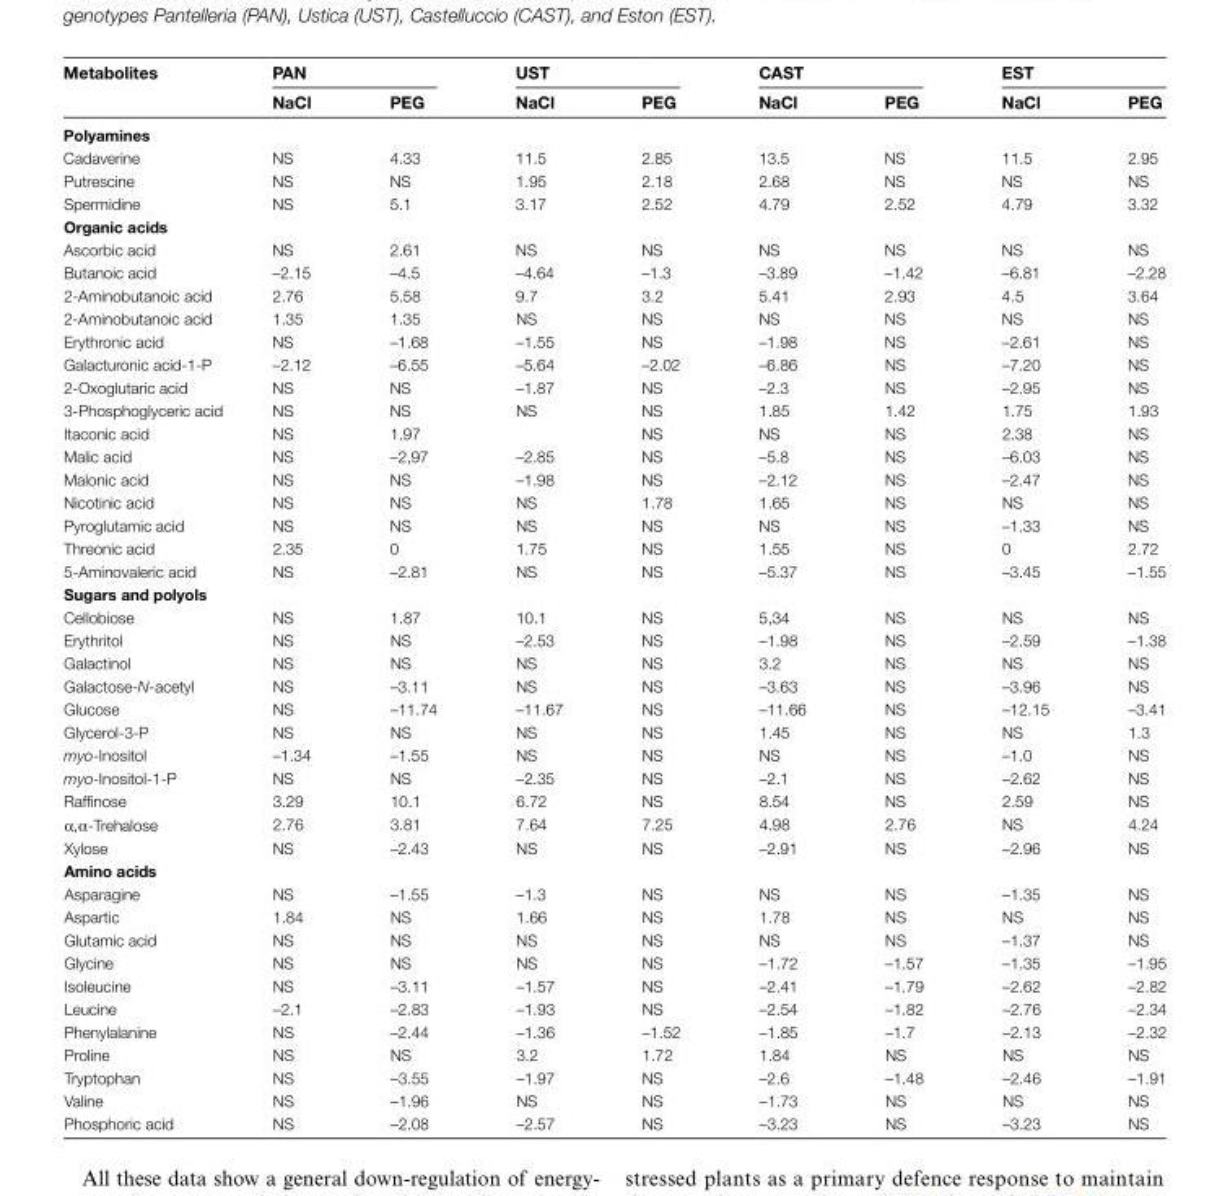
<table><thead><tr><td rowspan="2">Metabolites</td><td colspan="2">PAN</td><td colspan="2">UST</td><td colspan="2">CAST</td><td colspan="2">EST</td></tr><tr><td>NaCl</td><td>PEG</td><td>NaCl</td><td>PEG</td><td>NaCl</td><td>PEG</td><td>NaCl</td><td>PEG</td></tr></thead><tbody><tr><td colspan="9">Polyamines</td></tr><tr><td>Cadaverine</td><td>NS</td><td>4.33</td><td>11.5</td><td>2.85</td><td>13.5</td><td>NS</td><td>11.5</td><td>2.95</td></tr><tr><td>Putrescine</td><td>NS</td><td>NS</td><td>1.95</td><td>2.18</td><td>2.68</td><td>NS</td><td>NS</td><td>NS</td></tr><tr><td>Spermidine</td><td>NS</td><td>5.1</td><td>3.17</td><td>2.52</td><td>4.79</td><td>2.52</td><td>4.79</td><td>3.32</td></tr><tr><td colspan="9">Organic acids</td></tr><tr><td>Ascorbic acid</td><td>NS</td><td>2.61</td><td>NS</td><td>NS</td><td>NS</td><td>NS</td><td>NS</td><td>NS</td></tr><tr><td>Butanoic acid</td><td>–2.15</td><td>–4.5</td><td>–4.64</td><td>–1.3</td><td>–3.89</td><td>–1.42</td><td>–6.81</td><td>–2.28</td></tr><tr><td>2-Aminobutanoic acid</td><td>2.76</td><td>5.58</td><td>9.7</td><td>3.2</td><td>5.41</td><td>2.93</td><td>4.5</td><td>3.64</td></tr><tr><td>2-Aminobutanoic acid</td><td>1.35</td><td>1.35</td><td>NS</td><td>NS</td><td>NS</td><td>NS</td><td>NS</td><td>NS</td></tr><tr><td>Erythronic acid</td><td>NS</td><td>–1.68</td><td>–1.55</td><td>NS</td><td>–1.98</td><td>NS</td><td>–2.61</td><td>NS</td></tr><tr><td>Galacturonic acid-1-P</td><td>–2.12</td><td>–6.55</td><td>–5.64</td><td>–2.02</td><td>–6.86</td><td>NS</td><td>–7.20</td><td>NS</td></tr><tr><td>2-Oxoglutaric acid</td><td>NS</td><td>NS</td><td>–1.87</td><td>NS</td><td>–2.3</td><td>NS</td><td>–2.95</td><td>NS</td></tr><tr><td>3-Phosphoglyceric acid</td><td>NS</td><td>NS</td><td>NS</td><td>NS</td><td>1.85</td><td>1.42</td><td>1.75</td><td>1.93</td></tr><tr><td>Itaconic acid</td><td>NS</td><td>1.97</td><td></td><td>NS</td><td>NS</td><td>NS</td><td>2.38</td><td>NS</td></tr><tr><td>Malic acid</td><td>NS</td><td>–2,97</td><td>–2.85</td><td>NS</td><td>–5.8</td><td>NS</td><td>–6.03</td><td>NS</td></tr><tr><td>Malonic acid</td><td>NS</td><td>NS</td><td>–1.98</td><td>NS</td><td>–2.12</td><td>NS</td><td>–2.47</td><td>NS</td></tr><tr><td>Nicotinic acid</td><td>NS</td><td>NS</td><td>NS</td><td>1.78</td><td>1.65</td><td>NS</td><td>NS</td><td>NS</td></tr><tr><td>Pyroglutamic acid</td><td>NS</td><td>NS</td><td>NS</td><td>NS</td><td>NS</td><td>NS</td><td>–1.33</td><td>NS</td></tr><tr><td>Threonic acid</td><td>2.35</td><td>0</td><td>1.75</td><td>NS</td><td>1.55</td><td>NS</td><td>0</td><td>2.72</td></tr><tr><td>5-Aminovaleric acid</td><td>NS</td><td>–2.81</td><td>NS</td><td>NS</td><td>–5.37</td><td>NS</td><td>–3.45</td><td>–1.55</td></tr><tr><td colspan="9">Sugars and polyols</td></tr><tr><td>Cellobiose</td><td>NS</td><td>1.87</td><td>10.1</td><td>NS</td><td>5,34</td><td>NS</td><td>NS</td><td>NS</td></tr><tr><td>Erythritol</td><td>NS</td><td>NS</td><td>–2.53</td><td>NS</td><td>–1.98</td><td>NS</td><td>–2.59</td><td>–1.38</td></tr><tr><td>Galactinol</td><td>NS</td><td>NS</td><td>NS</td><td>NS</td><td>3.2</td><td>NS</td><td>NS</td><td>NS</td></tr><tr><td>Galactose-N-acetyl</td><td>NS</td><td>–3.11</td><td>NS</td><td>NS</td><td>–3.63</td><td>NS</td><td>–3.96</td><td>NS</td></tr><tr><td>Glucose</td><td>NS</td><td>–11.74</td><td>–11.67</td><td>NS</td><td>–11.66</td><td>NS</td><td>–12.15</td><td>–3.41</td></tr><tr><td>Glycerol-3-P</td><td>NS</td><td>NS</td><td>NS</td><td>NS</td><td>1.45</td><td>NS</td><td>NS</td><td>1.3</td></tr><tr><td>myo-Inositol</td><td>–1.34</td><td>–1.55</td><td>NS</td><td>NS</td><td>NS</td><td>NS</td><td>–1.0</td><td>NS</td></tr><tr><td>myo-Inositol-1-P</td><td>NS</td><td>NS</td><td>–2.35</td><td>NS</td><td>–2.1</td><td>NS</td><td>–2.62</td><td>NS</td></tr><tr><td>Raffinose</td><td>3.29</td><td>10.1</td><td>6.72</td><td>NS</td><td>8.54</td><td>NS</td><td>2.59</td><td>NS</td></tr><tr><td>α,α-Trehalose</td><td>2.76</td><td>3.81</td><td>7.64</td><td>7.25</td><td>4.98</td><td>2.76</td><td>NS</td><td>4.24</td></tr><tr><td>Xylose</td><td>NS</td><td>–2.43</td><td>NS</td><td>NS</td><td>–2.91</td><td>NS</td><td>–2.96</td><td>NS</td></tr><tr><td colspan="9">Amino acids</td></tr><tr><td>Asparagine</td><td>NS</td><td>–1.55</td><td>–1.3</td><td>NS</td><td>NS</td><td>NS</td><td>–1.35</td><td>NS</td></tr><tr><td>Aspartic</td><td>1.84</td><td>NS</td><td>1.66</td><td>NS</td><td>1.78</td><td>NS</td><td>NS</td><td>NS</td></tr><tr><td>Glutamic acid</td><td>NS</td><td>NS</td><td>NS</td><td>NS</td><td>NS</td><td>NS</td><td>–1.37</td><td>NS</td></tr><tr><td>Glycine</td><td>NS</td><td>NS</td><td>NS</td><td>NS</td><td>–1.72</td><td>–1.57</td><td>–1.35</td><td>–1.95</td></tr><tr><td>Isoleucine</td><td>NS</td><td>–3.11</td><td>–1.57</td><td>NS</td><td>–2.41</td><td>–1.79</td><td>–2.62</td><td>–2.82</td></tr><tr><td>Leucine</td><td>–2.1</td><td>–2.83</td><td>–1.93</td><td>NS</td><td>–2.54</td><td>–1.82</td><td>–2.76</td><td>–2.34</td></tr><tr><td>Phenylalanine</td><td>NS</td><td>–2.44</td><td>–1.36</td><td>–1.52</td><td>–1.85</td><td>–1.7</td><td>–2.13</td><td>–2.32</td></tr><tr><td>Proline</td><td>NS</td><td>NS</td><td>3.2</td><td>1.72</td><td>1.84</td><td>NS</td><td>NS</td><td>NS</td></tr><tr><td>Tryptophan</td><td>NS</td><td>–3.55</td><td>–1.97</td><td>NS</td><td>–2.6</td><td>–1.48</td><td>–2.46</td><td>–1.91</td></tr><tr><td>Valine</td><td>NS</td><td>–1.96</td><td>NS</td><td>NS</td><td>–1.73</td><td>NS</td><td>NS</td><td>NS</td></tr><tr><td>Phosphoric acid</td><td>NS</td><td>–2.08</td><td>–2.57</td><td>NS</td><td>–3.23</td><td>NS</td><td>–3.23</td><td>NS</td></tr></tbody></table>